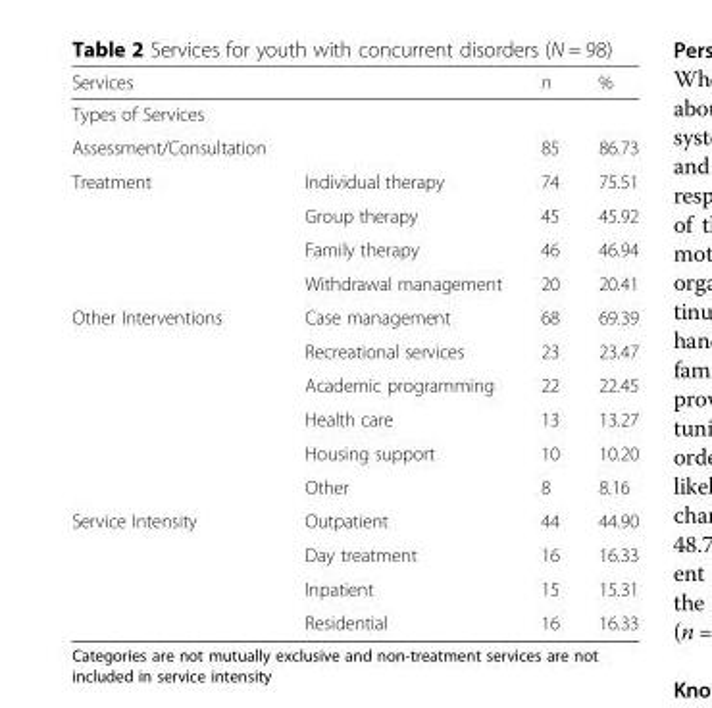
<table><thead><tr><td>Services</td><td></td><td>n</td><td>%</td></tr></thead><tbody><tr><td colspan="4">Types of Services</td></tr><tr><td>Assessment/Consultation</td><td></td><td>85</td><td>86.73</td></tr><tr><td rowspan="4">Treatment</td><td>Individual therapy</td><td>74</td><td>75.51</td></tr><tr><td>Group therapy</td><td>45</td><td>45.92</td></tr><tr><td>Family therapy</td><td>46</td><td>46.94</td></tr><tr><td>Withdrawal management</td><td>20</td><td>20.41</td></tr><tr><td rowspan="6">Other Interventions</td><td>Case management</td><td>68</td><td>69.39</td></tr><tr><td>Recreational services</td><td>23</td><td>23.47</td></tr><tr><td>Academic programming</td><td>22</td><td>22.45</td></tr><tr><td>Health care</td><td>13</td><td>13.27</td></tr><tr><td>Housing support</td><td>10</td><td>10.20</td></tr><tr><td>Other</td><td>8</td><td>8.16</td></tr><tr><td rowspan="4">Service Intensity</td><td>Outpatient</td><td>44</td><td>44.90</td></tr><tr><td>Day treatment</td><td>16</td><td>16.33</td></tr><tr><td>Inpatient</td><td>15</td><td>15.31</td></tr><tr><td>Residential</td><td>16</td><td>16.33</td></tr></tbody></table>